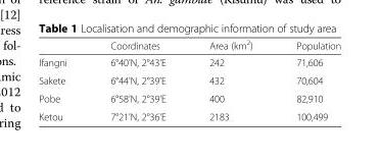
<table><thead><tr><td></td><td>Coordinates</td><td>Area (km<sup>2</sup>)</td><td>Population</td></tr></thead><tbody><tr><td>Ifangni</td><td>6°40&#x27;N, 2°43&#x27;E</td><td>242</td><td>71,606</td></tr><tr><td>Sakete</td><td>6°44&#x27;N, 2°39&#x27;E</td><td>432</td><td>70,604</td></tr><tr><td>Pobe</td><td>6°58&#x27;N, 2°39&#x27;E</td><td>400</td><td>82,910</td></tr><tr><td>Ketou</td><td>7°21&#x27;N, 2°36&#x27;E</td><td>2183</td><td>100,499</td></tr></tbody></table>